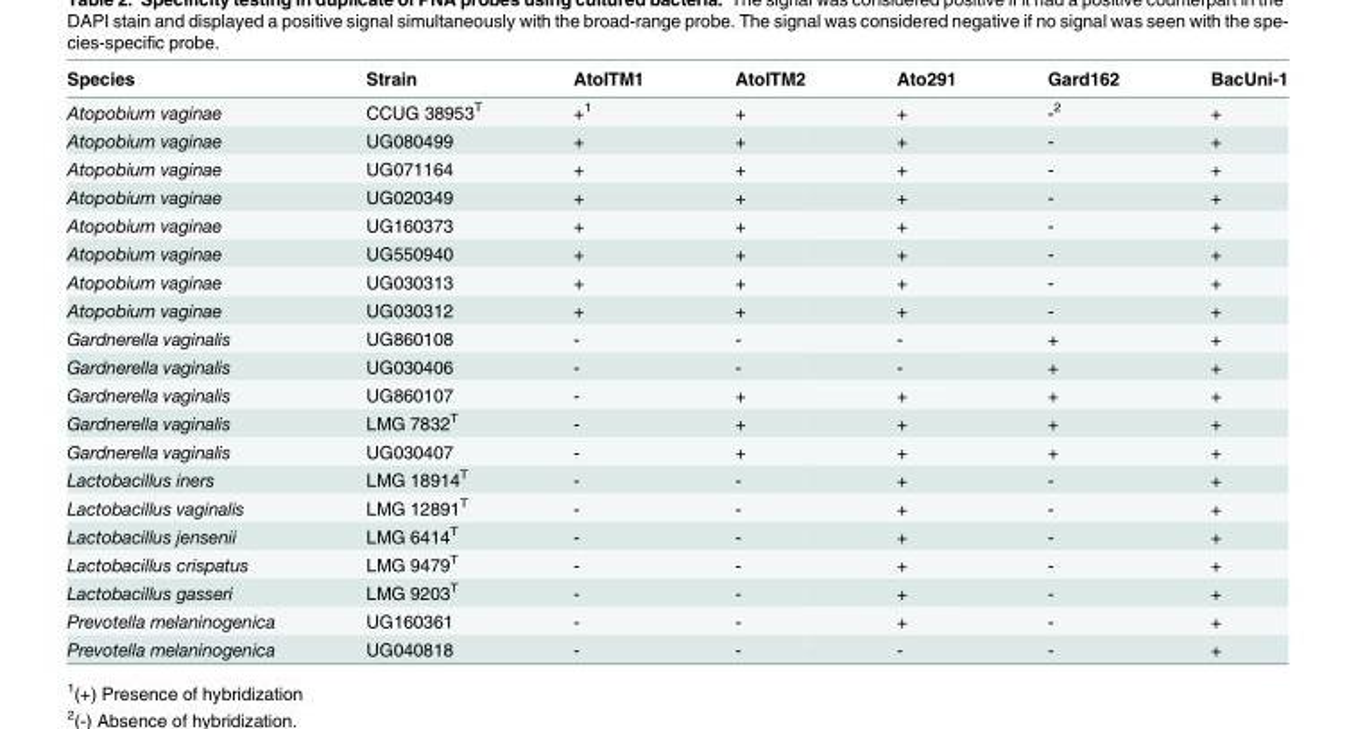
<table><thead><tr><td>Species</td><td>Strain</td><td>AtoITM1</td><td>AtoITM2</td><td>Ato291</td><td>Gard162</td><td>BacUni-1</td></tr></thead><tbody><tr><td>Atopobium vaginae</td><td>CCUG 38953<sup>T</sup></td><td>+<sup>1</sup></td><td>+</td><td>+</td><td>-<sup>2</sup></td><td>+</td></tr><tr><td>Atopobium vaginae</td><td>UG080499</td><td>+</td><td>+</td><td>+</td><td>-</td><td>+</td></tr><tr><td>Atopobium vaginae</td><td>UG071164</td><td>+</td><td>+</td><td>+</td><td>-</td><td>+</td></tr><tr><td>Atopobium vaginae</td><td>UG020349</td><td>+</td><td>+</td><td>+</td><td>-</td><td>+</td></tr><tr><td>Atopobium vaginae</td><td>UG160373</td><td>+</td><td>+</td><td>+</td><td>-</td><td>+</td></tr><tr><td>Atopobium vaginae</td><td>UG550940</td><td>+</td><td>+</td><td>+</td><td>-</td><td>+</td></tr><tr><td>Atopobium vaginae</td><td>UG030313</td><td>+</td><td>+</td><td>+</td><td>-</td><td>+</td></tr><tr><td>Atopobium vaginae</td><td>UG030312</td><td>+</td><td>+</td><td>+</td><td>-</td><td>+</td></tr><tr><td>Gardnerella vaginalis</td><td>UG860108</td><td>-</td><td>-</td><td>-</td><td>+</td><td>+</td></tr><tr><td>Gardnerella vaginalis</td><td>UG030406</td><td>-</td><td>-</td><td>-</td><td>+</td><td>+</td></tr><tr><td>Gardnerella vaginalis</td><td>UG860107</td><td>-</td><td>+</td><td>+</td><td>+</td><td>+</td></tr><tr><td>Gardnerella vaginalis</td><td>LMG 7832<sup>T</sup></td><td>-</td><td>+</td><td>+</td><td>+</td><td>+</td></tr><tr><td>Gardnerella vaginalis</td><td>UG030407</td><td>-</td><td>+</td><td>+</td><td>+</td><td>+</td></tr><tr><td>Lactobacillus iners</td><td>LMG 18914<sup>T</sup></td><td>-</td><td>-</td><td>+</td><td>-</td><td>+</td></tr><tr><td>Lactobacillus vaginalis</td><td>LMG 12891<sup>T</sup></td><td>-</td><td>-</td><td>+</td><td>-</td><td>+</td></tr><tr><td>Lactobacillus jensenii</td><td>LMG 6414<sup>T</sup></td><td>-</td><td>-</td><td>+</td><td>-</td><td>+</td></tr><tr><td>Lactobacillus crispatus</td><td>LMG 9479<sup>T</sup></td><td>-</td><td>-</td><td>+</td><td>-</td><td>+</td></tr><tr><td>Lactobacillus gasseri</td><td>LMG 9203<sup>T</sup></td><td>-</td><td>-</td><td>+</td><td>-</td><td>+</td></tr><tr><td>Prevotella melaninogenica</td><td>UG160361</td><td>-</td><td>-</td><td>+</td><td>-</td><td>+</td></tr><tr><td>Prevotella melaninogenica</td><td>UG040818</td><td>-</td><td>-</td><td>-</td><td>-</td><td>+</td></tr></tbody></table>